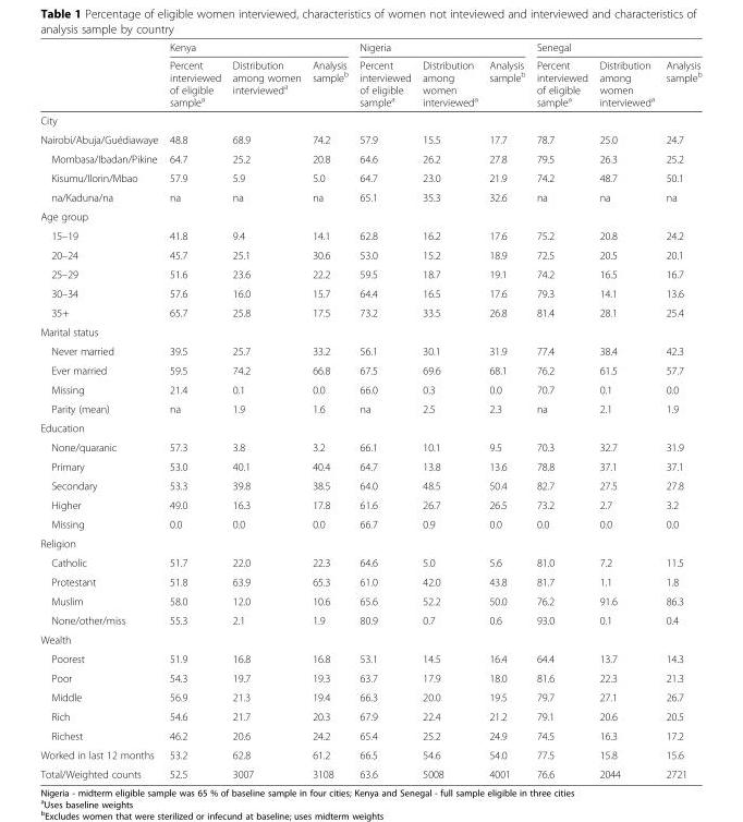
<table><thead><tr><td rowspan="2"></td><td colspan="3">Kenya</td><td colspan="3">Nigeria</td><td colspan="3">Senegal</td></tr><tr><td>Percent interviewed of eligible sample<sup>a</sup></td><td>Distribution among women interviewed<sup>a</sup></td><td>Analysis sample<sup>b</sup></td><td>Percent interviewed of eligible sample<sup>a</sup></td><td>Distribution among women interviewed<sup>a</sup></td><td>Analysis sample<sup>b</sup></td><td>Percent interviewed of eligible sample<sup>a</sup></td><td>Distribution among women interviewed<sup>a</sup></td><td>Analysis sample<sup>b</sup></td></tr></thead><tbody><tr><td colspan="10">City</td></tr><tr><td>Nairobi/Abuja/Guédiawaye</td><td>48.8</td><td>68.9</td><td>74.2</td><td>57.9</td><td>15.5</td><td>17.7</td><td>78.7</td><td>25.0</td><td>24.7</td></tr><tr><td>Mombasa/Ibadan/Pikine</td><td>64.7</td><td>25.2</td><td>20.8</td><td>64.6</td><td>26.2</td><td>27.8</td><td>79.5</td><td>26.3</td><td>25.2</td></tr><tr><td>Kisumu/Ilorin/Mbao</td><td>57.9</td><td>5.9</td><td>5.0</td><td>64.7</td><td>23.0</td><td>21.9</td><td>74.2</td><td>48.7</td><td>50.1</td></tr><tr><td>na/Kaduna/na</td><td>na</td><td>na</td><td>na</td><td>65.1</td><td>35.3</td><td>32.6</td><td>na</td><td>na</td><td>na</td></tr><tr><td colspan="10">Age group</td></tr><tr><td>15–19</td><td>41.8</td><td>9.4</td><td>14.1</td><td>62.8</td><td>16.2</td><td>17.6</td><td>75.2</td><td>20.8</td><td>24.2</td></tr><tr><td>20–24</td><td>45.7</td><td>25.1</td><td>30.6</td><td>53.0</td><td>15.2</td><td>18.9</td><td>72.5</td><td>20.5</td><td>20.1</td></tr><tr><td>25–29</td><td>51.6</td><td>23.6</td><td>22.2</td><td>59.5</td><td>18.7</td><td>19.1</td><td>74.2</td><td>16.5</td><td>16.7</td></tr><tr><td>30–34</td><td>57.6</td><td>16.0</td><td>15.7</td><td>64.4</td><td>16.5</td><td>17.6</td><td>79.3</td><td>14.1</td><td>13.6</td></tr><tr><td>35+</td><td>65.7</td><td>25.8</td><td>17.5</td><td>73.2</td><td>33.5</td><td>26.8</td><td>81.4</td><td>28.1</td><td>25.4</td></tr><tr><td colspan="10">Marital status</td></tr><tr><td>Never married</td><td>39.5</td><td>25.7</td><td>33.2</td><td>56.1</td><td>30.1</td><td>31.9</td><td>77.4</td><td>38.4</td><td>42.3</td></tr><tr><td>Ever married</td><td>59.5</td><td>74.2</td><td>66.8</td><td>67.5</td><td>69.6</td><td>68.1</td><td>76.2</td><td>61.5</td><td>57.7</td></tr><tr><td>Missing</td><td>21.4</td><td>0.1</td><td>0.0</td><td>66.0</td><td>0.3</td><td>0.0</td><td>70.7</td><td>0.1</td><td>0.0</td></tr><tr><td>Parity (mean)</td><td>na</td><td>1.9</td><td>1.6</td><td>na</td><td>2.5</td><td>2.3</td><td>na</td><td>2.1</td><td>1.9</td></tr><tr><td colspan="10">Education</td></tr><tr><td>None/quaranic</td><td>57.3</td><td>3.8</td><td>3.2</td><td>66.1</td><td>10.1</td><td>9.5</td><td>70.3</td><td>32.7</td><td>31.9</td></tr><tr><td>Primary</td><td>53.0</td><td>40.1</td><td>40.4</td><td>64.7</td><td>13.8</td><td>13.6</td><td>78.8</td><td>37.1</td><td>37.1</td></tr><tr><td>Secondary</td><td>53.3</td><td>39.8</td><td>38.5</td><td>64.0</td><td>48.5</td><td>50.4</td><td>82.7</td><td>27.5</td><td>27.8</td></tr><tr><td>Higher</td><td>49.0</td><td>16.3</td><td>17.8</td><td>61.6</td><td>26.7</td><td>26.5</td><td>73.2</td><td>2.7</td><td>3.2</td></tr><tr><td>Missing</td><td>0.0</td><td>0.0</td><td>0.0</td><td>66.7</td><td>0.9</td><td>0.0</td><td>0.0</td><td>0.0</td><td>0.0</td></tr><tr><td colspan="10">Religion</td></tr><tr><td>Catholic</td><td>51.7</td><td>22.0</td><td>22.3</td><td>64.6</td><td>5.0</td><td>5.6</td><td>81.0</td><td>7.2</td><td>11.5</td></tr><tr><td>Protestant</td><td>51.8</td><td>63.9</td><td>65.3</td><td>61.0</td><td>42.0</td><td>43.8</td><td>81.7</td><td>1.1</td><td>1.8</td></tr><tr><td>Muslim</td><td>58.0</td><td>12.0</td><td>10.6</td><td>65.6</td><td>52.2</td><td>50.0</td><td>76.2</td><td>91.6</td><td>86.3</td></tr><tr><td>None/other/miss</td><td>55.3</td><td>2.1</td><td>1.9</td><td>80.9</td><td>0.7</td><td>0.6</td><td>93.0</td><td>0.1</td><td>0.4</td></tr><tr><td colspan="10">Wealth</td></tr><tr><td>Poorest</td><td>51.9</td><td>16.8</td><td>16.8</td><td>53.1</td><td>14.5</td><td>16.4</td><td>64.4</td><td>13.7</td><td>14.3</td></tr><tr><td>Poor</td><td>54.3</td><td>19.7</td><td>19.3</td><td>63.7</td><td>17.9</td><td>18.0</td><td>81.6</td><td>22.3</td><td>21.3</td></tr><tr><td>Middle</td><td>56.9</td><td>21.3</td><td>19.4</td><td>66.3</td><td>20.0</td><td>19.5</td><td>79.7</td><td>27.1</td><td>26.7</td></tr><tr><td>Rich</td><td>54.6</td><td>21.7</td><td>20.3</td><td>67.9</td><td>22.4</td><td>21.2</td><td>79.1</td><td>20.6</td><td>20.5</td></tr><tr><td>Richest</td><td>46.2</td><td>20.6</td><td>24.2</td><td>65.4</td><td>25.2</td><td>24.9</td><td>74.5</td><td>16.3</td><td>17.2</td></tr><tr><td>Worked in last 12 months</td><td>53.2</td><td>62.8</td><td>61.2</td><td>66.5</td><td>54.6</td><td>54.0</td><td>77.5</td><td>15.8</td><td>15.6</td></tr><tr><td>Total/Weighted counts</td><td>52.5</td><td>3007</td><td>3108</td><td>63.6</td><td>5008</td><td>4001</td><td>76.6</td><td>2044</td><td>2721</td></tr></tbody></table>